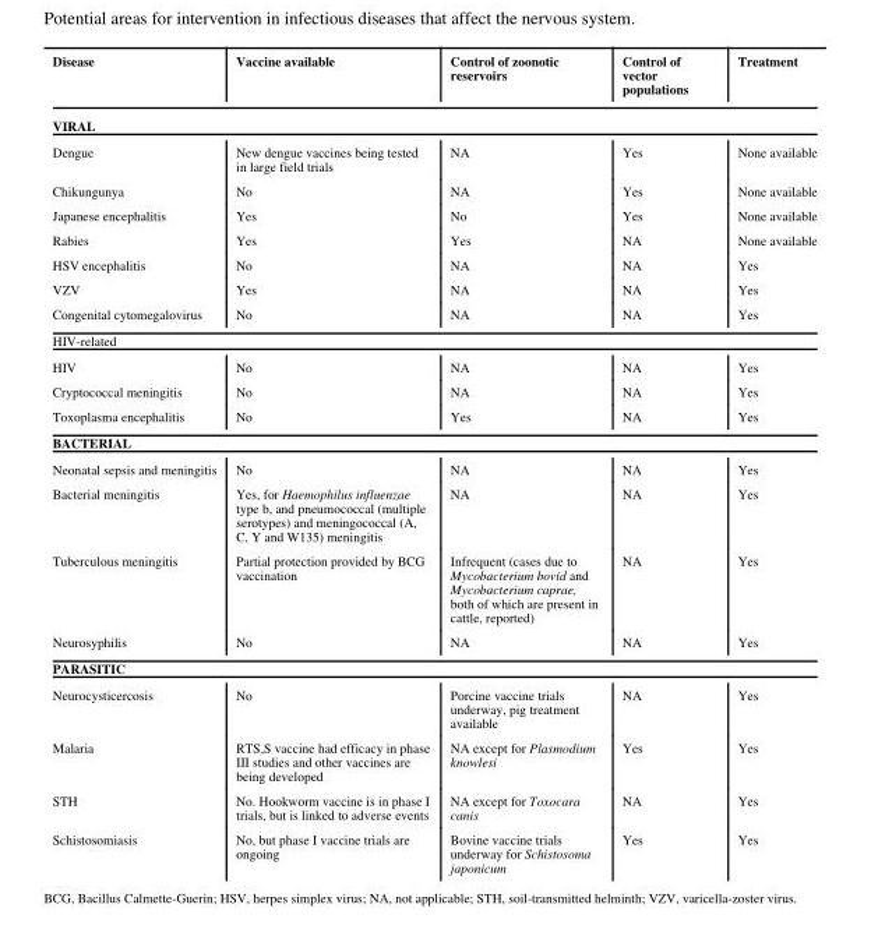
<table><thead><tr><td>Disease</td><td>Vaccine available</td><td>Control of zoonotic reservoirs</td><td>Control of vector populations</td><td>Treatment</td></tr></thead><tbody><tr><td colspan="5">VIRAL</td></tr><tr><td>Dengue</td><td>New dengue vaccines being tested in large field trials</td><td>NA</td><td>Yes</td><td>None available</td></tr><tr><td>Chikungunya</td><td>No</td><td>NA</td><td>Yes</td><td>None available</td></tr><tr><td>Japanese encephalitis</td><td>Yes</td><td>No</td><td>Yes</td><td>None available</td></tr><tr><td>Rabies</td><td>Yes</td><td>Yes</td><td>NA</td><td>None available</td></tr><tr><td>HSV encephalitis</td><td>No</td><td>NA</td><td>NA</td><td>Yes</td></tr><tr><td>VZV</td><td>Yes</td><td>NA</td><td>NA</td><td>Yes</td></tr><tr><td>Congenital cytomegalovirus</td><td>No</td><td>NA</td><td>NA</td><td>Yes</td></tr><tr><td colspan="5">HIV-related</td></tr><tr><td>HIV</td><td>No</td><td>NA</td><td>NA</td><td>Yes</td></tr><tr><td>Cryptococcal meningitis</td><td>No</td><td>NA</td><td>NA</td><td>Yes</td></tr><tr><td>Toxoplasma encephalitis</td><td>No</td><td>Yes</td><td>NA</td><td>Yes</td></tr><tr><td colspan="5">BACTERIAL</td></tr><tr><td>Neonatal sepsis and meningitis</td><td>No</td><td>NA</td><td>NA</td><td>Yes</td></tr><tr><td>Bacterial meningitis</td><td>Yes, for Haemophilus influenzae type b, and pneumococcal (multiple serotypes) and meningococcal (A, C, Y and W135) meningitis</td><td>NA</td><td>NA</td><td>Yes</td></tr><tr><td>Tuberculous meningitis</td><td>Partial protection provided by BCG vaccination</td><td>Infrequent (cases due to Mycobacterium bovid and Mycobacterium caprae, both of which are present in cattle, reported)</td><td>NA</td><td>Yes</td></tr><tr><td>Neurosyphilis</td><td>No</td><td>NA</td><td>NA</td><td>Yes</td></tr><tr><td colspan="5">PARASITIC</td></tr><tr><td>Neurocysticercosis</td><td>No</td><td>Porcine vaccine trials underway, pig treatment available</td><td>NA</td><td>Yes</td></tr><tr><td>Malaria</td><td>RTS,S vaccine had efficacy in phase III studies and other vaccines are being developed</td><td>NA except for Plasmodium knowlesi</td><td>Yes</td><td>Yes</td></tr><tr><td>STH</td><td>No. Hookworm vaccine is in phase I trials, but is linked to adverse events</td><td>NA except for Toxocara canis</td><td>NA</td><td>Yes</td></tr><tr><td>Schistosomiasis</td><td>No, but phase I vaccine trials are ongoing</td><td>Bovine vaccine trials underway for Schistosoma japonicum</td><td>Yes</td><td>Yes</td></tr></tbody></table>